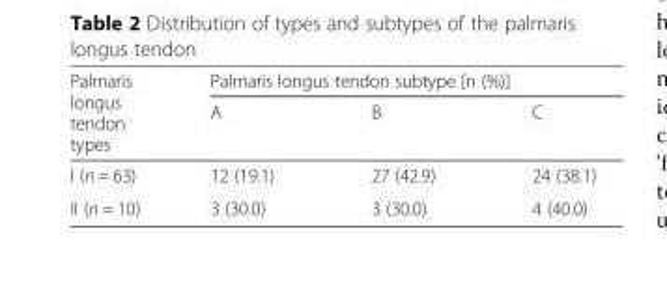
<table><thead><tr><td rowspan="2">Palmaris longus tendon types</td><td colspan="3">Palmaris longus tendon subtype [n (%)]</td></tr><tr><td>A</td><td>B</td><td>C</td></tr></thead><tbody><tr><td>I (n = 63)</td><td>12 (19.1)</td><td>27 (42.9)</td><td>24 (38.1)</td></tr><tr><td>II (n = 10)</td><td>3 (30.0)</td><td>3 (30.0)</td><td>4 (40.0)</td></tr></tbody></table>